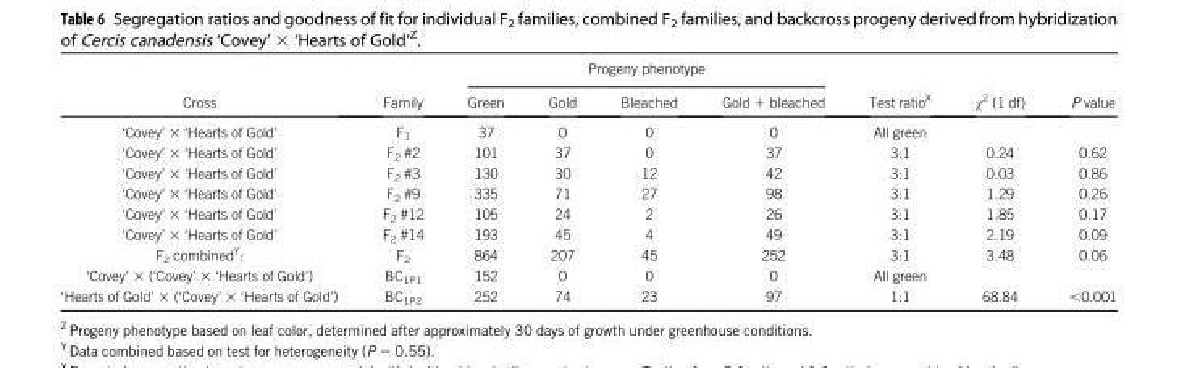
<table><thead><tr><td rowspan="2">Cross</td><td rowspan="2">Family</td><td colspan="4">Progeny phenotype</td><td rowspan="2">Test ratio<sup>X</sup></td><td rowspan="2">χ<sup>2</sup> (1 df)</td><td rowspan="2">P value</td></tr><tr><td>Green</td><td>Gold</td><td>Bleached</td><td>Gold + bleached</td></tr></thead><tbody><tr><td>‘Covey’ × ‘Hearts of Gold’</td><td>F<sub>1</sub></td><td>37</td><td>0</td><td>0</td><td>0</td><td>All green</td><td></td><td></td></tr><tr><td>‘Covey’ × ‘Hearts of Gold’</td><td>F<sub>2</sub> #2</td><td>101</td><td>37</td><td>0</td><td>37</td><td>3:1</td><td>0.24</td><td>0.62</td></tr><tr><td>‘Covey’ × ‘Hearts of Gold’</td><td>F<sub>2</sub> #3</td><td>130</td><td>30</td><td>12</td><td>42</td><td>3:1</td><td>0.03</td><td>0.86</td></tr><tr><td>‘Covey’ × ‘Hearts of Gold’</td><td>F<sub>2</sub> #9</td><td>335</td><td>71</td><td>27</td><td>98</td><td>3:1</td><td>1.29</td><td>0.26</td></tr><tr><td>‘Covey’ × ‘Hearts of Gold’</td><td>F<sub>2</sub> #12</td><td>105</td><td>24</td><td>2</td><td>26</td><td>3:1</td><td>1.85</td><td>0.17</td></tr><tr><td>‘Covey’ × ‘Hearts of Gold’</td><td>F<sub>2</sub> #14</td><td>193</td><td>45</td><td>4</td><td>49</td><td>3:1</td><td>2.19</td><td>0.09</td></tr><tr><td>F<sub>2</sub> combined<sup>Y</sup>:</td><td>F<sub>2</sub></td><td>864</td><td>207</td><td>45</td><td>252</td><td>3:1</td><td>3.48</td><td>0.06</td></tr><tr><td>‘Covey’ × (‘Covey’ × ‘Hearts of Gold’)</td><td>BC<sub>1P1</sub></td><td>152</td><td>0</td><td>0</td><td>0</td><td>All green</td><td></td><td></td></tr><tr><td>‘Hearts of Gold’ × (‘Covey’ × ‘Hearts of Gold’)</td><td>BC<sub>1P2</sub></td><td>252</td><td>74</td><td>23</td><td>97</td><td>1:1</td><td>68.84</td><td>&lt;0.001</td></tr></tbody></table>